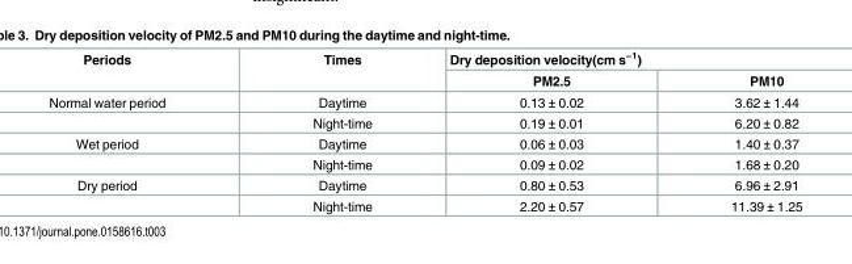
<table><thead><tr><td rowspan="2">Periods</td><td rowspan="2">Times</td><td colspan="2">Dry deposition velocity(cm s<sup>−1</sup>)</td></tr><tr><td>PM2.5</td><td>PM10</td></tr></thead><tbody><tr><td rowspan="2">Normal water period</td><td>Daytime</td><td>0.13 ± 0.02</td><td>3.62 ± 1.44</td></tr><tr><td>Night-time</td><td>0.19 ± 0.01</td><td>6.20 ± 0.82</td></tr><tr><td rowspan="2">Wet period</td><td>Daytime</td><td>0.06 ± 0.03</td><td>1.40 ± 0.37</td></tr><tr><td>Night-time</td><td>0.09 ± 0.02</td><td>1.68 ± 0.20</td></tr><tr><td rowspan="2">Dry period</td><td>Daytime</td><td>0.80 ± 0.53</td><td>6.96 ± 2.91</td></tr><tr><td>Night-time</td><td>2.20 ± 0.57</td><td>11.39 ± 1.25</td></tr></tbody></table>